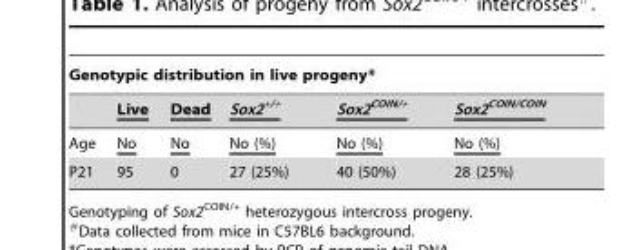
<table><thead><tr><td colspan="6">Genotypic distribution in live progeny*</td></tr><tr><td></td><td>Live</td><td>Dead</td><td>Sox2<sup>+/+</sup></td><td>Sox2<sup>COIN/+</sup></td><td>Sox2<sup>COIN/COIN</sup></td></tr></thead><tbody><tr><td>Age</td><td>No</td><td>No</td><td>No (%)</td><td>No (%)</td><td>No (%)</td></tr><tr><td>P21</td><td>95</td><td>0</td><td>27 (25%)</td><td>40 (50%)</td><td>28 (25%)</td></tr></tbody></table>